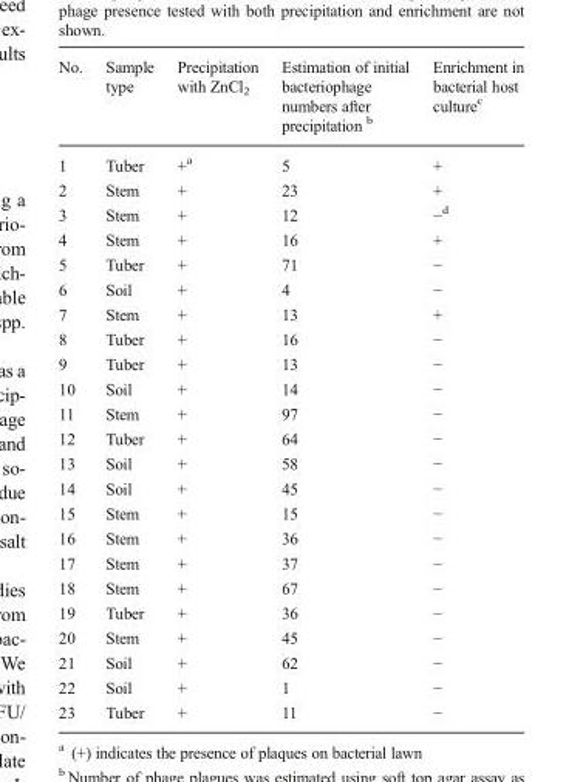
<table><thead><tr><td>No.</td><td>Sample type</td><td>Precipitation with ZnCl<sub>2</sub></td><td>Estimation of initial bacteriophage numbers after precipitation <sup>b</sup></td><td>Enrichment in bacterial host culture<sup>c</sup></td></tr></thead><tbody><tr><td>1</td><td>Tuber</td><td>+<sup>a</sup></td><td>5</td><td>+</td></tr><tr><td>2</td><td>Stem</td><td>+</td><td>23</td><td>+</td></tr><tr><td>3</td><td>Stem</td><td>+</td><td>12</td><td>−<sup>d</sup></td></tr><tr><td>4</td><td>Stem</td><td>+</td><td>16</td><td>+</td></tr><tr><td>5</td><td>Tuber</td><td>+</td><td>71</td><td>−</td></tr><tr><td>6</td><td>Soil</td><td>+</td><td>4</td><td>−</td></tr><tr><td>7</td><td>Stem</td><td>+</td><td>13</td><td>+</td></tr><tr><td>8</td><td>Tuber</td><td>+</td><td>16</td><td>−</td></tr><tr><td>9</td><td>Tuber</td><td>+</td><td>13</td><td>−</td></tr><tr><td>10</td><td>Soil</td><td>+</td><td>14</td><td>−</td></tr><tr><td>11</td><td>Stem</td><td>+</td><td>97</td><td>−</td></tr><tr><td>12</td><td>Tuber</td><td>+</td><td>64</td><td>−</td></tr><tr><td>13</td><td>Soil</td><td>+</td><td>58</td><td>−</td></tr><tr><td>14</td><td>Soil</td><td>+</td><td>45</td><td>−</td></tr><tr><td>15</td><td>Stem</td><td>+</td><td>15</td><td>−</td></tr><tr><td>16</td><td>Stem</td><td>+</td><td>36</td><td>−</td></tr><tr><td>17</td><td>Stem</td><td>+</td><td>37</td><td>−</td></tr><tr><td>18</td><td>Stem</td><td>+</td><td>67</td><td>−</td></tr><tr><td>19</td><td>Tuber</td><td>+</td><td>36</td><td>−</td></tr><tr><td>20</td><td>Stem</td><td>+</td><td>45</td><td>−</td></tr><tr><td>21</td><td>Soil</td><td>+</td><td>62</td><td>−</td></tr><tr><td>22</td><td>Soil</td><td>+</td><td>1</td><td>−</td></tr><tr><td>23</td><td>Tuber</td><td>+</td><td>11</td><td>−</td></tr></tbody></table>